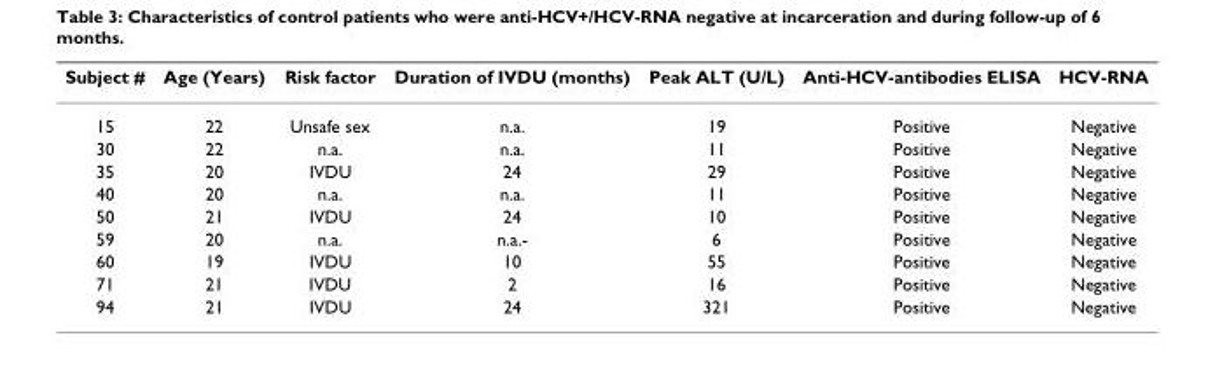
<table><thead><tr><td>Subject #</td><td>Age (Years)</td><td>Risk factor</td><td>Duration of IVDU (months)</td><td>Peak ALT (U/L)</td><td>Anti-HCV-antibodies ELISA</td><td>HCV-RNA</td></tr></thead><tbody><tr><td>15</td><td>22</td><td>Unsafe sex</td><td>n.a.</td><td>19</td><td>Positive</td><td>Negative</td></tr><tr><td>30</td><td>22</td><td>n.a.</td><td>n.a.</td><td>11</td><td>Positive</td><td>Negative</td></tr><tr><td>35</td><td>20</td><td>IVDU</td><td>24</td><td>29</td><td>Positive</td><td>Negative</td></tr><tr><td>40</td><td>20</td><td>n.a.</td><td>n.a.</td><td>11</td><td>Positive</td><td>Negative</td></tr><tr><td>50</td><td>21</td><td>IVDU</td><td>24</td><td>10</td><td>Positive</td><td>Negative</td></tr><tr><td>59</td><td>20</td><td>n.a.</td><td>n.a.-</td><td>6</td><td>Positive</td><td>Negative</td></tr><tr><td>60</td><td>19</td><td>IVDU</td><td>10</td><td>55</td><td>Positive</td><td>Negative</td></tr><tr><td>71</td><td>21</td><td>IVDU</td><td>2</td><td>16</td><td>Positive</td><td>Negative</td></tr><tr><td>94</td><td>21</td><td>IVDU</td><td>24</td><td>321</td><td>Positive</td><td>Negative</td></tr></tbody></table>